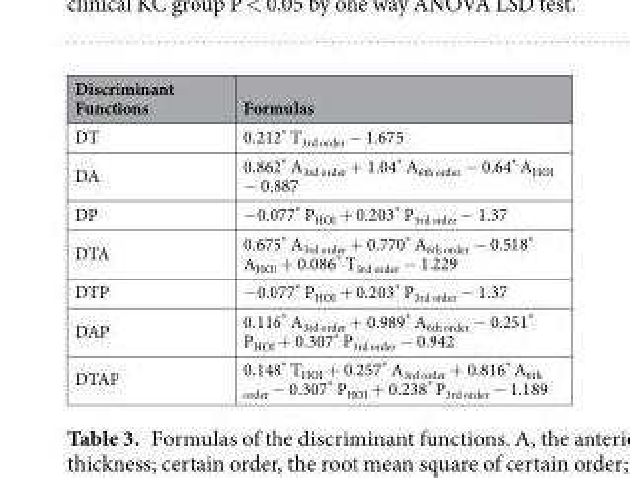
<table><thead><tr><td>Discriminant Functions</td><td>Formulas</td></tr></thead><tbody><tr><td>DT</td><td>0.212* T<sub>3rd order</sub> − 1.675</td></tr><tr><td>DA</td><td>0.862* A<sub>3rd order</sub> + 1.04* A<sub>6th order</sub> − 0.64* A<sub>HOI</sub> − 0.887</td></tr><tr><td>DP</td><td>−0.077* P<sub>HOI</sub> + 0.203* P<sub>3rd order</sub> − 1.37</td></tr><tr><td>DTA</td><td>0.675* A<sub>3rd order</sub> + 0.770* A<sub>6th order</sub> − 0.518* A<sub>HOI</sub> + 0.086* T<sub>3rd order</sub> − 1.229</td></tr><tr><td>DTP</td><td>−0.077* P<sub>HOI</sub> + 0.203* P<sub>3rd order</sub> − 1.37</td></tr><tr><td>DAP</td><td>0.116* A<sub>3rd order</sub> + 0.989* A<sub>6th order</sub> − 0.251* P<sub>HOI</sub> + 0.307* P<sub>3rd order</sub> − 0.942</td></tr><tr><td>DTAP</td><td>0.148* T<sub>HOI</sub> + 0.257* A<sub>3rd order</sub> + 0.816* A<sub>6th order</sub> − 0.307* P<sub>HOI</sub> + 0.238* P<sub>3rd order</sub> − 1.189</td></tr></tbody></table>